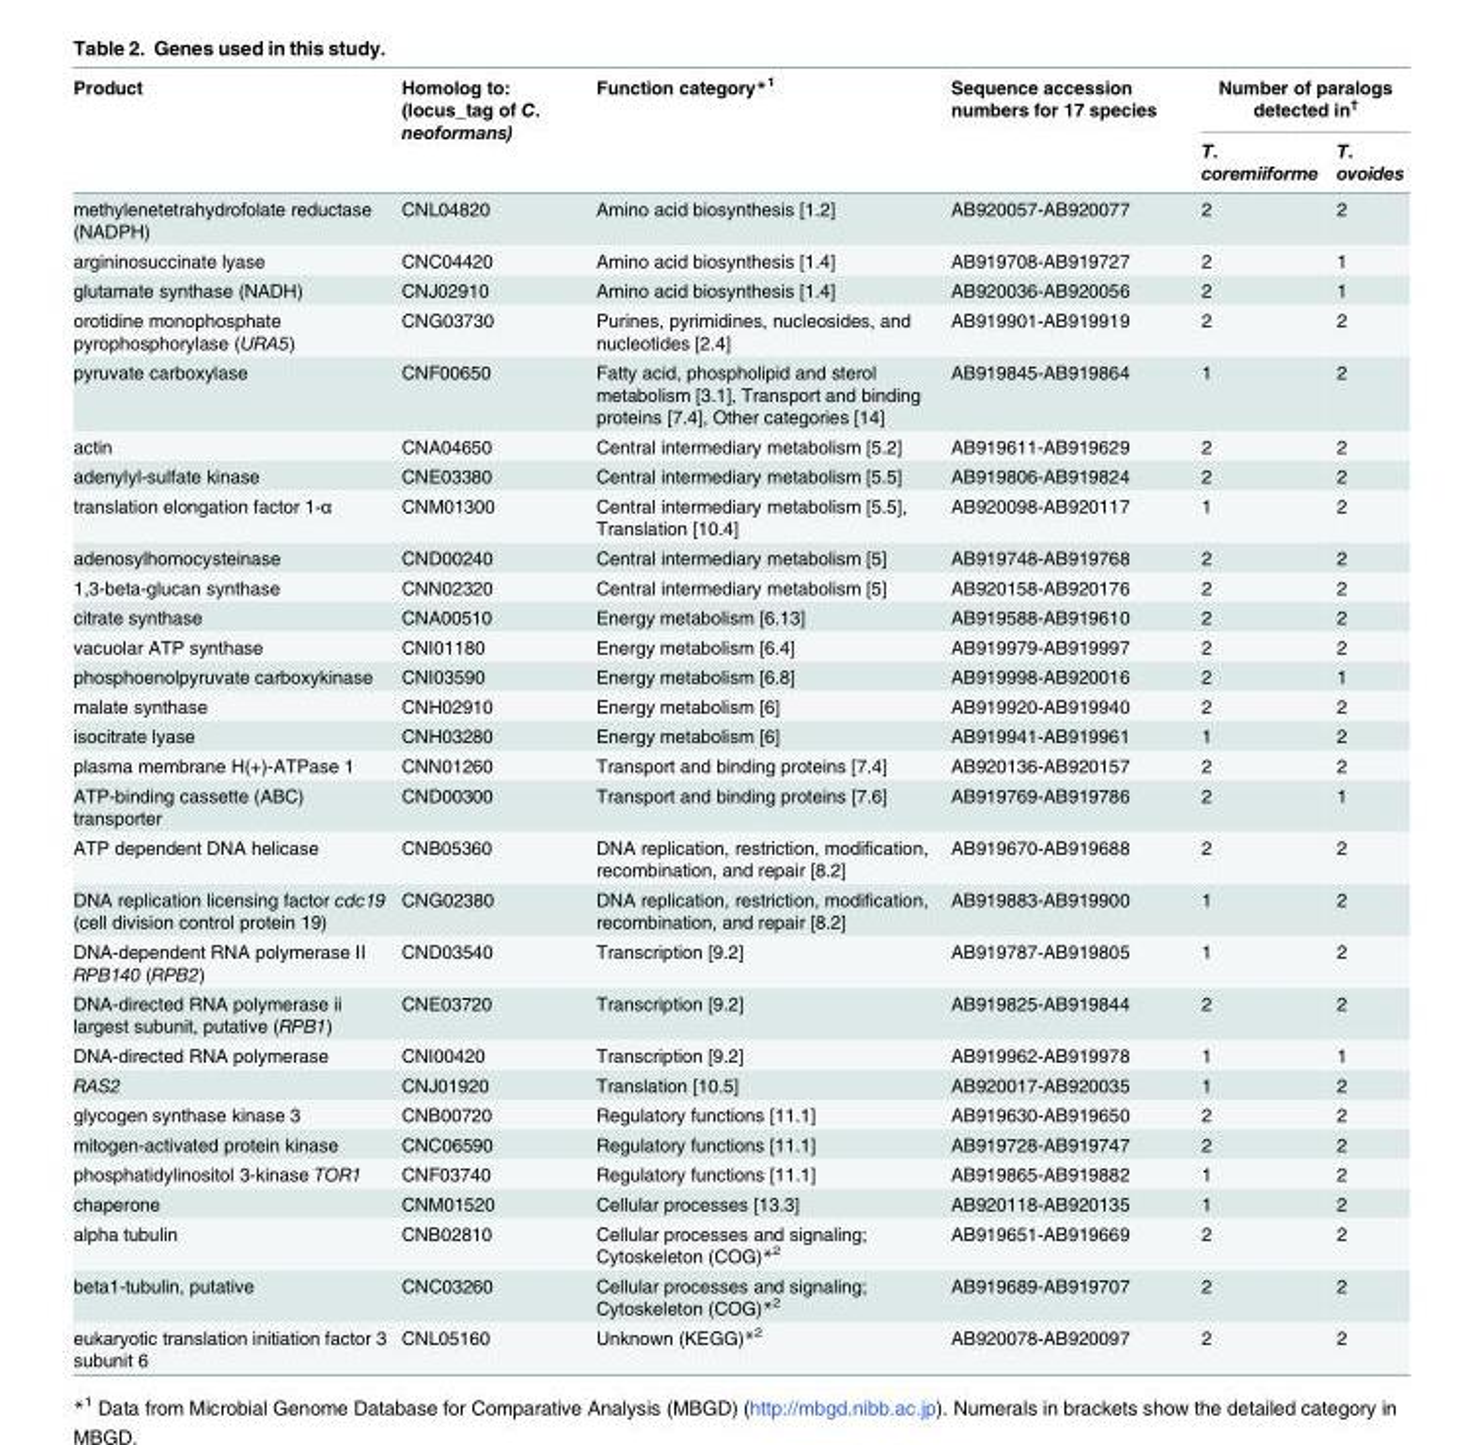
<table><thead><tr><td rowspan="2">Product</td><td rowspan="2">Homolog to: (locus_tag of C. neoformans)</td><td rowspan="2">Function category*<sup>1</sup></td><td rowspan="2">Sequence accession numbers for 17 species</td><td colspan="2">Number of paralogs detected in<sup>†</sup></td></tr><tr><td>T. coremiiforme</td><td>T. ovoides</td></tr></thead><tbody><tr><td>methylenetetrahydrofolate reductase (NADPH)</td><td>CNL04820</td><td>Amino acid biosynthesis [1.2]</td><td>AB920057-AB920077</td><td>2</td><td>2</td></tr><tr><td>argininosuccinate lyase</td><td>CNC04420</td><td>Amino acid biosynthesis [1.4]</td><td>AB919708-AB919727</td><td>2</td><td>1</td></tr><tr><td>glutamate synthase (NADH)</td><td>CNJ02910</td><td>Amino acid biosynthesis [1.4]</td><td>AB920036-AB920056</td><td>2</td><td>1</td></tr><tr><td>orotidine monophosphate pyrophosphorylase (URA5)</td><td>CNG03730</td><td>Purines, pyrimidines, nucleosides, and nucleotides [2.4]</td><td>AB919901-AB919919</td><td>2</td><td>2</td></tr><tr><td>pyruvate carboxylase</td><td>CNF00650</td><td>Fatty acid, phospholipid and sterol metabolism [3.1], Transport and binding proteins [7.4], Other categories [14]</td><td>AB919845-AB919864</td><td>1</td><td>2</td></tr><tr><td>actin</td><td>CNA04650</td><td>Central intermediary metabolism [5.2]</td><td>AB919611-AB919629</td><td>2</td><td>2</td></tr><tr><td>adenylyl-sulfate kinase</td><td>CNE03380</td><td>Central intermediary metabolism [5.5]</td><td>AB919806-AB919824</td><td>2</td><td>2</td></tr><tr><td>translation elongation factor 1-α</td><td>CNM01300</td><td>Central intermediary metabolism [5.5], Translation [10.4]</td><td>AB920098-AB920117</td><td>1</td><td>2</td></tr><tr><td>adenosylhomocysteinase</td><td>CND00240</td><td>Central intermediary metabolism [5]</td><td>AB919748-AB919768</td><td>2</td><td>2</td></tr><tr><td>1,3-beta-glucan synthase</td><td>CNN02320</td><td>Central intermediary metabolism [5]</td><td>AB920158-AB920176</td><td>2</td><td>2</td></tr><tr><td>citrate synthase</td><td>CNA00510</td><td>Energy metabolism [6.13]</td><td>AB919588-AB919610</td><td>2</td><td>2</td></tr><tr><td>vacuolar ATP synthase</td><td>CNI01180</td><td>Energy metabolism [6.4]</td><td>AB919979-AB919997</td><td>2</td><td>2</td></tr><tr><td>phosphoenolpyruvate carboxykinase</td><td>CNI03590</td><td>Energy metabolism [6.8]</td><td>AB919998-AB920016</td><td>2</td><td>1</td></tr><tr><td>malate synthase</td><td>CNH02910</td><td>Energy metabolism [6]</td><td>AB919920-AB919940</td><td>2</td><td>2</td></tr><tr><td>isocitrate lyase</td><td>CNH03280</td><td>Energy metabolism [6]</td><td>AB919941-AB919961</td><td>1</td><td>2</td></tr><tr><td>plasma membrane H(+)-ATPase 1</td><td>CNN01260</td><td>Transport and binding proteins [7.4]</td><td>AB920136-AB920157</td><td>2</td><td>2</td></tr><tr><td>ATP-binding cassette (ABC) transporter</td><td>CND00300</td><td>Transport and binding proteins [7.6]</td><td>AB919769-AB919786</td><td>2</td><td>1</td></tr><tr><td>ATP dependent DNA helicase</td><td>CNB05360</td><td>DNA replication, restriction, modification, recombination, and repair [8.2]</td><td>AB919670-AB919688</td><td>2</td><td>2</td></tr><tr><td>DNA replication licensing factor cdc19 (cell division control protein 19)</td><td>CNG02380</td><td>DNA replication, restriction, modification, recombination, and repair [8.2]</td><td>AB919883-AB919900</td><td>1</td><td>2</td></tr><tr><td>DNA-dependent RNA polymerase II RPB140 (RPB2)</td><td>CND03540</td><td>Transcription [9.2]</td><td>AB919787-AB919805</td><td>1</td><td>2</td></tr><tr><td>DNA-directed RNA polymerase ii largest subunit, putative (RPB1)</td><td>CNE03720</td><td>Transcription [9.2]</td><td>AB919825-AB919844</td><td>2</td><td>2</td></tr><tr><td>DNA-directed RNA polymerase</td><td>CNI00420</td><td>Transcription [9.2]</td><td>AB919962-AB919978</td><td>1</td><td>1</td></tr><tr><td>RAS2</td><td>CNJ01920</td><td>Translation [10.5]</td><td>AB920017-AB920035</td><td>1</td><td>2</td></tr><tr><td>glycogen synthase kinase 3</td><td>CNB00720</td><td>Regulatory functions [11.1]</td><td>AB919630-AB919650</td><td>2</td><td>2</td></tr><tr><td>mitogen-activated protein kinase</td><td>CNC06590</td><td>Regulatory functions [11.1]</td><td>AB919728-AB919747</td><td>2</td><td>2</td></tr><tr><td>phosphatidylinositol 3-kinase TOR1</td><td>CNF03740</td><td>Regulatory functions [11.1]</td><td>AB919865-AB919882</td><td>1</td><td>2</td></tr><tr><td>chaperone</td><td>CNM01520</td><td>Cellular processes [13.3]</td><td>AB920118-AB920135</td><td>1</td><td>2</td></tr><tr><td>alpha tubulin</td><td>CNB02810</td><td>Cellular processes and signaling; Cytoskeleton (COG)*<sup>2</sup></td><td>AB919651-AB919669</td><td>2</td><td>2</td></tr><tr><td>beta1-tubulin, putative</td><td>CNC03260</td><td>Cellular processes and signaling; Cytoskeleton (COG)*<sup>2</sup></td><td>AB919689-AB919707</td><td>2</td><td>2</td></tr><tr><td>eukaryotic translation initiation factor 3 subunit 6</td><td>CNL05160</td><td>Unknown (KEGG)*<sup>2</sup></td><td>AB920078-AB920097</td><td>2</td><td>2</td></tr></tbody></table>